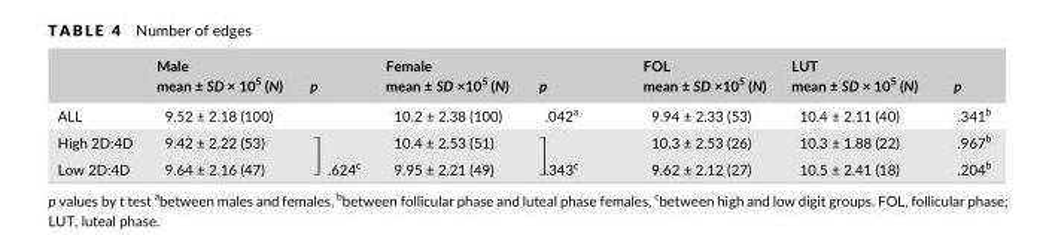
<table><thead><tr><td></td><td>Male mean ± SD × 10<sup>5</sup> (N)</td><td><sup>p</sup></td><td>Female mean ± SD ×10<sup>5</sup> (N)</td><td>p</td><td>FOL mean ± SD ×10<sup>5</sup> (N)</td><td>LUT mean ± SD × 10<sup>5</sup> (N)</td><td>p</td></tr></thead><tbody><tr><td>ALL</td><td>9.52 ± 2.18 (100)</td><td></td><td>10.2 ± 2.38 (100)</td><td>.042<sup>a</sup></td><td>9.94 ± 2.33 (53)</td><td>10.4 ± 2.11 (40)</td><td>.341<sup>b</sup></td></tr><tr><td>High 2D:4D</td><td>9.42 ± 2.22 (53)</td><td rowspan="2">.624<sup>c</sup></td><td>10.4 ± 2.53 (51)</td><td rowspan="2">.343<sup>c</sup></td><td>10.3 ± 2.53 (26)</td><td>10.3 ± 1.88 (22)</td><td>.967<sup>b</sup></td></tr><tr><td>Low 2D:4D</td><td>9.64 ± 2.16 (47)</td><td>9.95 ± 2.21 (49)</td><td>9.62 ± 2.12 (27)</td><td>10.5 ± 2.41 (18)</td><td>.204<sup>b</sup></td></tr></tbody></table>